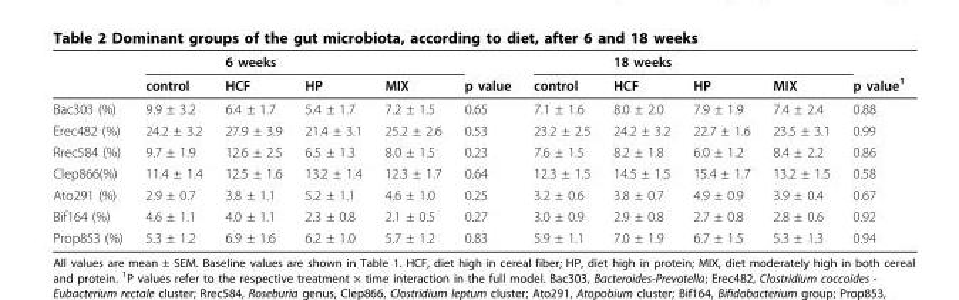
<table><thead><tr><td rowspan="2"></td><td rowspan="2">control</td><td colspan="3">6 weeks</td><td rowspan="2">p value</td><td rowspan="2">control</td><td colspan="3">18 weeks</td><td rowspan="2">p value<sup>1</sup></td></tr><tr><td>HCF</td><td>HP</td><td>MIX</td><td>HCF</td><td>HP</td><td>MIX</td></tr></thead><tbody><tr><td>Bac303 (%)</td><td>9.9 ± 3.2</td><td>6.4 ± 1.7</td><td>5.4 ± 1.7</td><td>7.2 ± 1.5</td><td>0.65</td><td>7.1 ± 1.6</td><td>8.0 ± 2.0</td><td>7.9 ± 1.9</td><td>7.4 ± 2.4</td><td>0.88</td></tr><tr><td>Erec482 (%)</td><td>24.2 ± 3.2</td><td>27.9 ± 3.9</td><td>21.4 ± 3.1</td><td>25.2 ± 2.6</td><td>0.53</td><td>23.2 ± 2.5</td><td>24.2 ± 3.2</td><td>22.7 ± 1.6</td><td>23.5 ± 3.1</td><td>0.99</td></tr><tr><td>Rrec584 (%)</td><td>9.7 ± 1.9</td><td>12.6 ± 2.5</td><td>6.5 ± 1.3</td><td>8.0 ± 1.5</td><td>0.23</td><td>7.6 ± 1.5</td><td>8.2 ± 1.8</td><td>6.0 ± 1.2</td><td>8.4 ± 2.2</td><td>0.86</td></tr><tr><td>Clep866(%)</td><td>11.4 ± 1.4</td><td>12.5 ± 1.6</td><td>13.2 ± 1.4</td><td>12.3 ± 1.7</td><td>0.64</td><td>12.3 ± 1.5</td><td>14.5 ± 1.5</td><td>15.4 ± 1.7</td><td>13.2 ± 1.5</td><td>0.58</td></tr><tr><td>Ato291 (%)</td><td>2.9 ± 0.7</td><td>3.8 ± 1.1</td><td>5.2 ± 1.1</td><td>4.6 ± 1.0</td><td>0.25</td><td>3.2 ± 0.6</td><td>3.8 ± 0.7</td><td>4.9 ± 0.9</td><td>3.9 ± 0.4</td><td>0.67</td></tr><tr><td>Bif164 (%)</td><td>4.6 ± 1.1</td><td>4.0 ± 1.1</td><td>2.3 ± 0.8</td><td>2.1 ± 0.5</td><td>0.27</td><td>3.0 ± 0.9</td><td>2.9 ± 0.8</td><td>2.7 ± 0.8</td><td>2.8 ± 0.6</td><td>0.92</td></tr><tr><td>Prop853 (%)</td><td>5.3 ± 1.2</td><td>6.9 ± 1.6</td><td>6.2 ± 1.0</td><td>5.7 ± 1.2</td><td>0.83</td><td>5.9 ± 1.1</td><td>7.0 ± 1.9</td><td>6.7 ± 1.5</td><td>5.3 ± 1.3</td><td>0.94</td></tr></tbody></table>